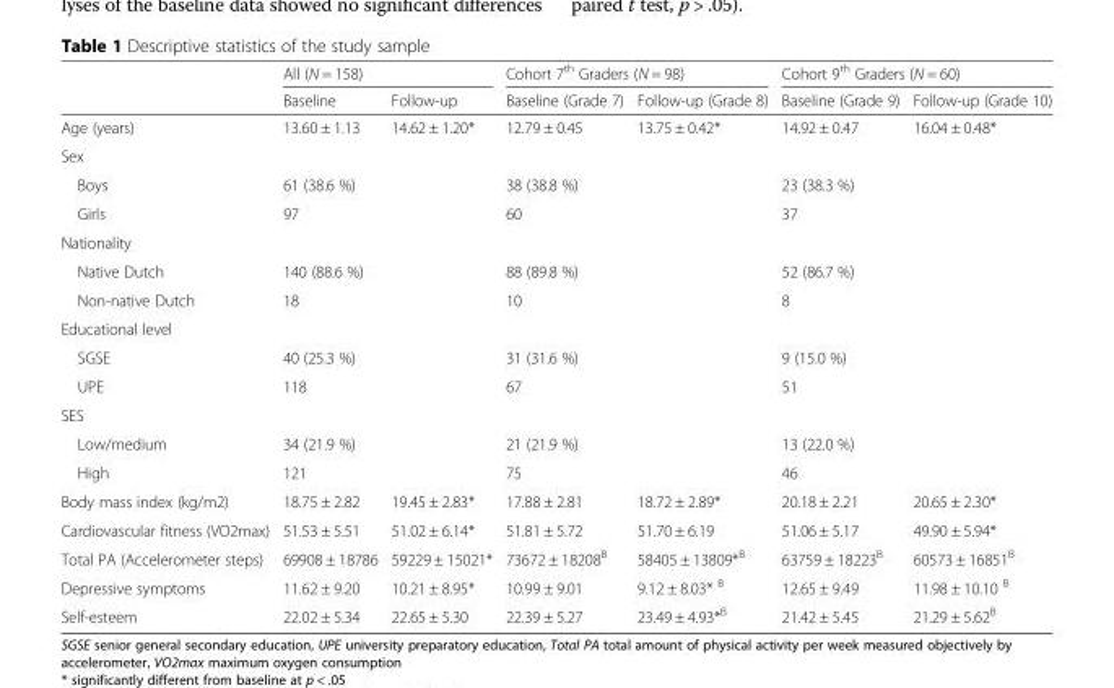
<table><thead><tr><td rowspan="2"></td><td colspan="2">All (N = 158)</td><td colspan="2">Cohort 7<sup>th</sup> Graders (N = 98)</td><td colspan="2">Cohort 9<sup>th</sup> Graders (N = 60)</td></tr><tr><td>Baseline</td><td>Follow-up</td><td>Baseline (Grade 7)</td><td>Follow-up (Grade 8)</td><td>Baseline (Grade 9)</td><td>Follow-up (Grade 10)</td></tr></thead><tbody><tr><td>Age (years)</td><td>13.60 ± 1.13</td><td>14.62 ± 1.20*</td><td>12.79 ± 0.45</td><td>13.75 ± 0.42*</td><td>14.92 ± 0.47</td><td>16.04 ± 0.48*</td></tr><tr><td colspan="7">Sex</td></tr><tr><td>Boys</td><td colspan="2">61 (38.6 %)</td><td colspan="2">38 (38.8 %)</td><td colspan="2">23 (38.3 %)</td></tr><tr><td>Girls</td><td colspan="2">97</td><td colspan="2">60</td><td colspan="2">37</td></tr><tr><td colspan="7">Nationality</td></tr><tr><td>Native Dutch</td><td colspan="2">140 (88.6 %)</td><td colspan="2">88 (89.8 %)</td><td colspan="2">52 (86.7 %)</td></tr><tr><td>Non-native Dutch</td><td colspan="2">18</td><td colspan="2">10</td><td colspan="2">8</td></tr><tr><td colspan="7">Educational level</td></tr><tr><td>SGSE</td><td colspan="2">40 (25.3 %)</td><td colspan="2">31 (31.6 %)</td><td colspan="2">9 (15.0 %)</td></tr><tr><td>UPE</td><td colspan="2">118</td><td colspan="2">67</td><td colspan="2">51</td></tr><tr><td colspan="7">SES</td></tr><tr><td>Low/medium</td><td colspan="2">34 (21.9 %)</td><td colspan="2">21 (21.9 %)</td><td colspan="2">13 (22.0 %)</td></tr><tr><td>High</td><td colspan="2">121</td><td colspan="2">75</td><td colspan="2">46</td></tr><tr><td>Body mass index (kg/m2)</td><td>18.75 ± 2.82</td><td>19.45 ± 2.83*</td><td>17.88 ± 2.81</td><td>18.72 ± 2.89*</td><td>20.18 ± 2.21</td><td>20.65 ± 2.30*</td></tr><tr><td>Cardiovascular fitness (VO2max)</td><td>51.53 ± 5.51</td><td>51.02 ± 6.14*</td><td>51.81 ± 5.72</td><td>51.70 ± 6.19</td><td>51.06 ± 5.17</td><td>49.90 ± 5.94*</td></tr><tr><td>Total PA (Accelerometer steps)</td><td>69908 ± 18786</td><td>59229 ± 15021*</td><td>73672 ± 18208<sup>B</sup></td><td>58405 ± 13809*<sup>B</sup></td><td>63759 ± 18223<sup>B</sup></td><td>60573 ± 16851<sup>B</sup></td></tr><tr><td>Depressive symptoms</td><td>11.62 ± 9.20</td><td>10.21 ± 8.95*</td><td>10.99 ± 9.01</td><td>9.12 ± 8.03* <sup>B</sup></td><td>12.65 ± 9.49</td><td>11.98 ± 10.10 <sup>B</sup></td></tr><tr><td>Self-esteem</td><td>22.02 ± 5.34</td><td>22.65 ± 5.30</td><td>22.39 ± 5.27</td><td>23.49 ± 4.93*<sup>B</sup></td><td>21.42 ± 5.45</td><td>21.29 ± 5.62<sup>B</sup></td></tr></tbody></table>